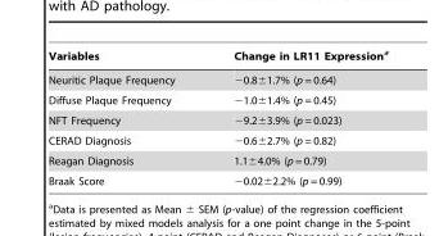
<table><thead><tr><td>Variables</td><td>Change in LR11 Expression<sup>a</sup></td></tr></thead><tbody><tr><td>Neuritic Plaque Frequency</td><td>−0.8±1.7% (p = 0.64)</td></tr><tr><td>Diffuse Plaque Frequency</td><td>−1.0±1.4% (p = 0.45)</td></tr><tr><td>NFT Frequency</td><td>−9.2±3.9% (p = 0.023)</td></tr><tr><td>CERAD Diagnosis</td><td>−0.6±2.7% (p = 0.82)</td></tr><tr><td>Reagan Diagnosis</td><td>1.1±4.0% (p = 0.79)</td></tr><tr><td>Braak Score</td><td>−0.02±2.2% (p = 0.99)</td></tr></tbody></table>